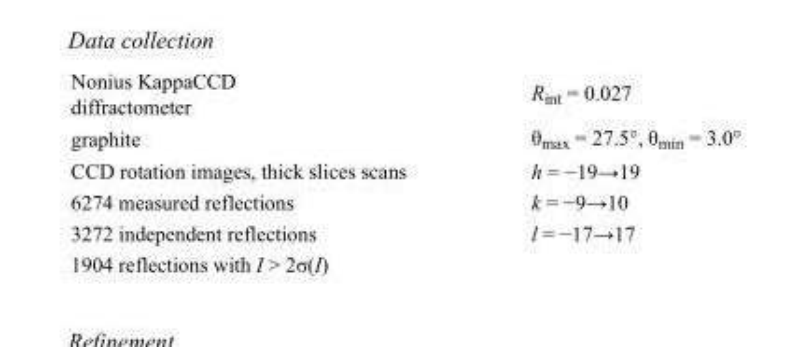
<table><tbody><tr><td>Nonius KappaCCD diffractometer</td><td>R<sub>int</sub> = 0.027</td></tr><tr><td>graphite</td><td>θ<sub>max</sub> = 27.5°, θ<sub>min</sub> = 3.0°</td></tr><tr><td>CCD rotation images, thick slices scans</td><td>h = −19→19</td></tr><tr><td>6274 measured reflections</td><td>k = −9→10</td></tr><tr><td>3272 independent reflections</td><td>l = −17→17</td></tr><tr><td>1904 reflections with I &gt; 2σ(I)</td><td></td></tr></tbody></table>